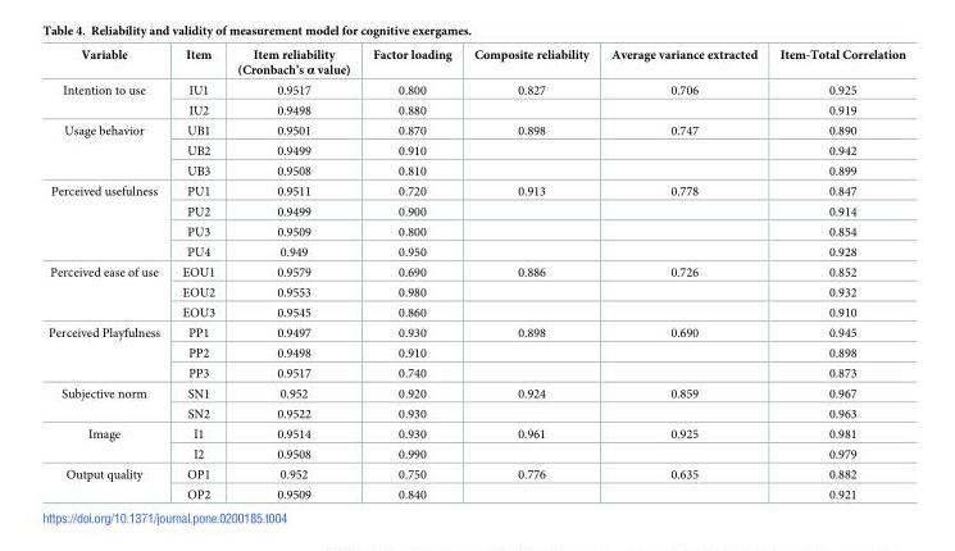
<table><thead><tr><td>Variable</td><td>Item</td><td>Item reliability (Cronbach’s α value)</td><td>Factor loading</td><td>Composite reliability</td><td>Average variance extracted</td><td>Item-Total Correlation</td></tr></thead><tbody><tr><td rowspan="2">Intention to use</td><td>IU1</td><td>0.9517</td><td>0.800</td><td>0.827</td><td>0.706</td><td>0.925</td></tr><tr><td>IU2</td><td>0.9498</td><td>0.880</td><td></td><td></td><td>0.919</td></tr><tr><td rowspan="3">Usage behavior</td><td>UB1</td><td>0.9501</td><td>0.870</td><td>0.898</td><td>0.747</td><td>0.890</td></tr><tr><td>UB2</td><td>0.9499</td><td>0.910</td><td></td><td></td><td>0.942</td></tr><tr><td>UB3</td><td>0.9508</td><td>0.810</td><td></td><td></td><td>0.899</td></tr><tr><td rowspan="4">Perceived usefulness</td><td>PU1</td><td>0.9511</td><td>0.720</td><td>0.913</td><td>0.778</td><td>0.847</td></tr><tr><td>PU2</td><td>0.9499</td><td>0.900</td><td></td><td></td><td>0.914</td></tr><tr><td>PU3</td><td>0.9509</td><td>0.800</td><td></td><td></td><td>0.854</td></tr><tr><td>PU4</td><td>0.949</td><td>0.950</td><td></td><td></td><td>0.928</td></tr><tr><td rowspan="3">Perceived ease of use</td><td>EOU1</td><td>0.9579</td><td>0.690</td><td>0.886</td><td>0.726</td><td>0.852</td></tr><tr><td>EOU2</td><td>0.9553</td><td>0.980</td><td></td><td></td><td>0.932</td></tr><tr><td>EOU3</td><td>0.9545</td><td>0.860</td><td></td><td></td><td>0.910</td></tr><tr><td rowspan="3">Perceived Playfulness</td><td>PP1</td><td>0.9497</td><td>0.930</td><td>0.898</td><td>0.690</td><td>0.945</td></tr><tr><td>PP2</td><td>0.9498</td><td>0.910</td><td></td><td></td><td>0.898</td></tr><tr><td>PP3</td><td>0.9517</td><td>0.740</td><td></td><td></td><td>0.873</td></tr><tr><td rowspan="2">Subjective norm</td><td>SN1</td><td>0.952</td><td>0.920</td><td>0.924</td><td>0.859</td><td>0.967</td></tr><tr><td>SN2</td><td>0.9522</td><td>0.930</td><td></td><td></td><td>0.963</td></tr><tr><td rowspan="2">Image</td><td>I1</td><td>0.9514</td><td>0.930</td><td>0.961</td><td>0.925</td><td>0.981</td></tr><tr><td>I2</td><td>0.9508</td><td>0.990</td><td></td><td></td><td>0.979</td></tr><tr><td rowspan="2">Output quality</td><td>OP1</td><td>0.952</td><td>0.750</td><td>0.776</td><td>0.635</td><td>0.882</td></tr><tr><td>OP2</td><td>0.9509</td><td>0.840</td><td></td><td></td><td>0.921</td></tr></tbody></table>